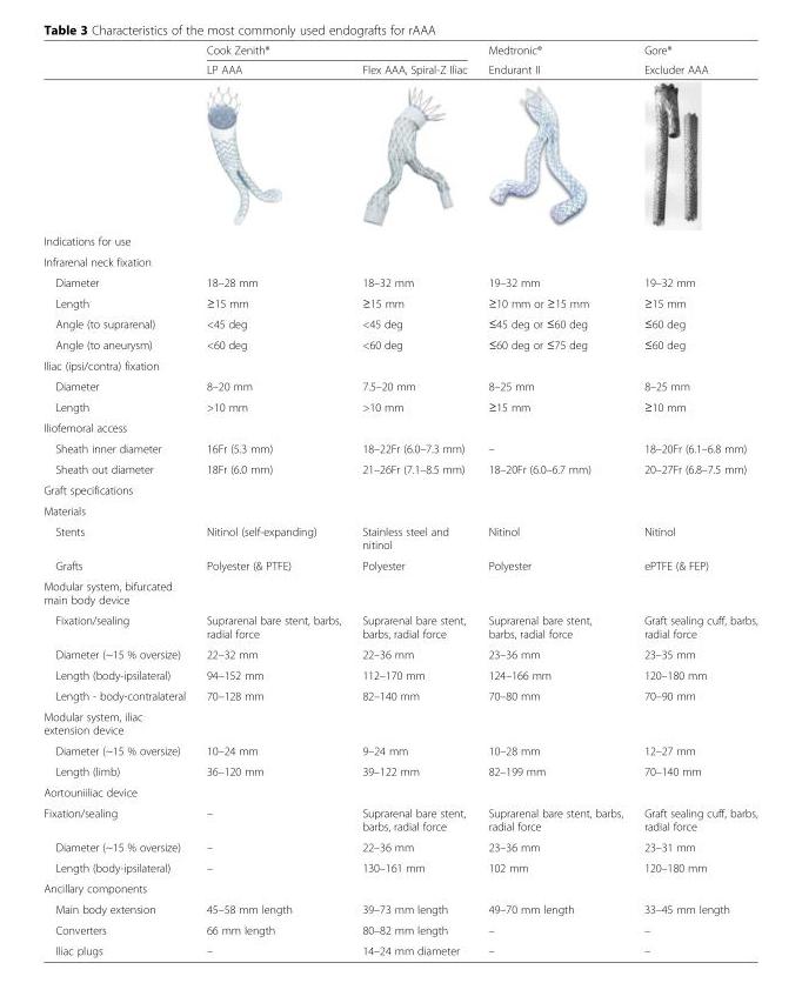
<table><thead><tr><td rowspan="2"></td><td colspan="2">Cook Zenith®</td><td rowspan="2">Medtronic® Endurant II</td><td rowspan="2">Gore® Excluder AAA</td></tr><tr><td>LP AAA</td><td>Flex AAA, Spiral-Z Iliac</td></tr></thead><tbody><tr><td colspan="5">Indications for use</td></tr><tr><td colspan="5">Infrarenal neck fixation</td></tr><tr><td>Diameter</td><td>18–28 mm</td><td>18–32 mm</td><td>19–32 mm</td><td>19–32 mm</td></tr><tr><td>Length</td><td>≥15 mm</td><td>≥15 mm</td><td>≥10 mm or ≥15 mm</td><td>≥15 mm</td></tr><tr><td>Angle (to suprarenal)</td><td>&lt;45 deg</td><td>&lt;45 deg</td><td>≤45 deg or ≤60 deg</td><td>≤60 deg</td></tr><tr><td>Angle (to aneurysm)</td><td>&lt;60 deg</td><td>&lt;60 deg</td><td>≤60 deg or ≤75 deg</td><td>≤60 deg</td></tr><tr><td colspan="5">Iliac (ipsi/contra) fixation</td></tr><tr><td>Diameter</td><td>8–20 mm</td><td>7.5–20 mm</td><td>8–25 mm</td><td>8–25 mm</td></tr><tr><td>Length</td><td>&gt;10 mm</td><td>&gt;10 mm</td><td>≥15 mm</td><td>≥10 mm</td></tr><tr><td colspan="5">Iliofemoral access</td></tr><tr><td>Sheath inner diameter</td><td>16Fr (5.3 mm)</td><td>18–22Fr (6.0–7.3 mm)</td><td>–</td><td>18–20Fr (6.1–6.8 mm)</td></tr><tr><td>Sheath out diameter</td><td>18Fr (6.0 mm)</td><td>21–26Fr (7.1–8.5 mm)</td><td>18–20Fr (6.0–6.7 mm)</td><td>20–27Fr (6.8–7.5 mm)</td></tr><tr><td colspan="5">Graft specifications</td></tr><tr><td colspan="5">Materials</td></tr><tr><td>Stents</td><td>Nitinol (self-expanding)</td><td>Stainless steel and nitinol</td><td>Nitinol</td><td>Nitinol</td></tr><tr><td>Grafts</td><td>Polyester (&amp; PTFE)</td><td>Polyester</td><td>Polyester</td><td>ePTFE (&amp; FEP)</td></tr><tr><td colspan="5">Modular system, bifurcated main body device</td></tr><tr><td>Fixation/sealing</td><td>Suprarenal bare stent, barbs, radial force</td><td>Suprarenal bare stent, barbs, radial force</td><td>Suprarenal bare stent, barbs, radial force</td><td>Graft sealing cuff, barbs, radial force</td></tr><tr><td>Diameter (~15 % oversize)</td><td>22–32 mm</td><td>22–36 mm</td><td>23–36 mm</td><td>23–35 mm</td></tr><tr><td>Length (body-ipsilateral)</td><td>94–152 mm</td><td>112–170 mm</td><td>124–166 mm</td><td>120–180 mm</td></tr><tr><td>Length - body-contralateral</td><td>70–128 mm</td><td>82–140 mm</td><td>70–80 mm</td><td>70–90 mm</td></tr><tr><td colspan="5">Modular system, iliac extension device</td></tr><tr><td>Diameter (~15 % oversize)</td><td>10–24 mm</td><td>9–24 mm</td><td>10–28 mm</td><td>12–27 mm</td></tr><tr><td>Length (limb)</td><td>36–120 mm</td><td>39–122 mm</td><td>82–199 mm</td><td>70–140 mm</td></tr><tr><td colspan="5">Aortouniiliac device</td></tr><tr><td>Fixation/sealing</td><td>–</td><td>Suprarenal bare stent, barbs, radial force</td><td>Suprarenal bare stent, barbs, radial force</td><td>Graft sealing cuff, barbs, radial force</td></tr><tr><td>Diameter (~15 % oversize)</td><td>–</td><td>22–36 mm</td><td>23–36 mm</td><td>23–31 mm</td></tr><tr><td>Length (body-ipsilateral)</td><td>–</td><td>130–161 mm</td><td>102 mm</td><td>120–180 mm</td></tr><tr><td colspan="5">Ancillary components</td></tr><tr><td>Main body extension</td><td>45–58 mm length</td><td>39–73 mm length</td><td>49–70 mm length</td><td>33–45 mm length</td></tr><tr><td>Converters</td><td>66 mm length</td><td>80–82 mm length</td><td>–</td><td>–</td></tr><tr><td>Iliac plugs</td><td>–</td><td>14–24 mm diameter</td><td>–</td><td>–</td></tr></tbody></table>